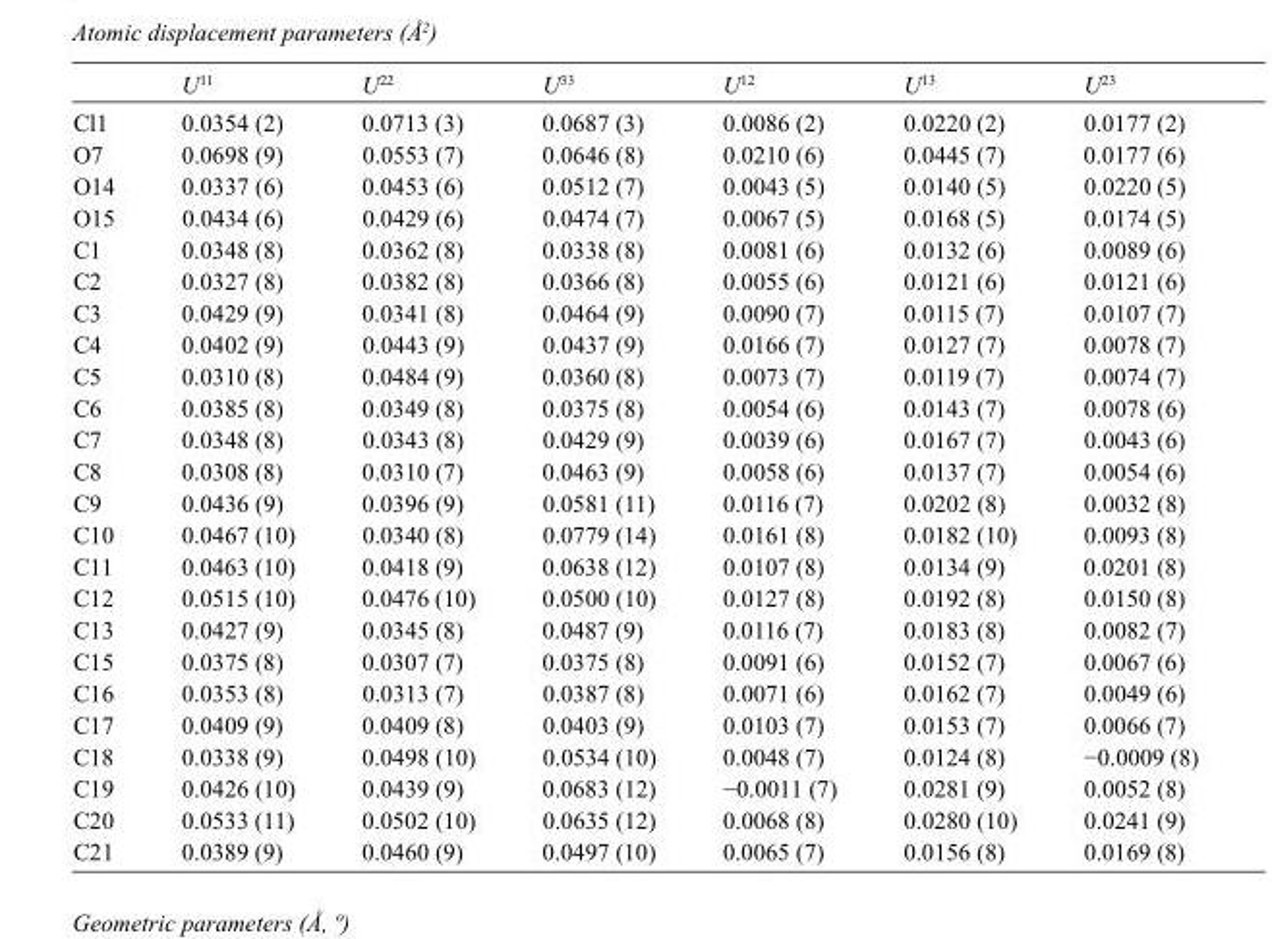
<table><thead><tr><td></td><td>U<sup>11</sup></td><td>U<sup>22</sup></td><td>U<sup>33</sup></td><td>U<sup>12</sup></td><td>U<sup>13</sup></td><td>U<sup>23</sup></td></tr></thead><tbody><tr><td>Cl1</td><td>0.0354 (2)</td><td>0.0713 (3)</td><td>0.0687 (3)</td><td>0.0086 (2)</td><td>0.0220 (2)</td><td>0.0177 (2)</td></tr><tr><td>O7</td><td>0.0698 (9)</td><td>0.0553 (7)</td><td>0.0646 (8)</td><td>0.0210 (6)</td><td>0.0445 (7)</td><td>0.0177 (6)</td></tr><tr><td>O14</td><td>0.0337 (6)</td><td>0.0453 (6)</td><td>0.0512 (7)</td><td>0.0043 (5)</td><td>0.0140 (5)</td><td>0.0220 (5)</td></tr><tr><td>O15</td><td>0.0434 (6)</td><td>0.0429 (6)</td><td>0.0474 (7)</td><td>0.0067 (5)</td><td>0.0168 (5)</td><td>0.0174 (5)</td></tr><tr><td>C1</td><td>0.0348 (8)</td><td>0.0362 (8)</td><td>0.0338 (8)</td><td>0.0081 (6)</td><td>0.0132 (6)</td><td>0.0089 (6)</td></tr><tr><td>C2</td><td>0.0327 (8)</td><td>0.0382 (8)</td><td>0.0366 (8)</td><td>0.0055 (6)</td><td>0.0121 (6)</td><td>0.0121 (6)</td></tr><tr><td>C3</td><td>0.0429 (9)</td><td>0.0341 (8)</td><td>0.0464 (9)</td><td>0.0090 (7)</td><td>0.0115 (7)</td><td>0.0107 (7)</td></tr><tr><td>C4</td><td>0.0402 (9)</td><td>0.0443 (9)</td><td>0.0437 (9)</td><td>0.0166 (7)</td><td>0.0127 (7)</td><td>0.0078 (7)</td></tr><tr><td>C5</td><td>0.0310 (8)</td><td>0.0484 (9)</td><td>0.0360 (8)</td><td>0.0073 (7)</td><td>0.0119 (7)</td><td>0.0074 (7)</td></tr><tr><td>C6</td><td>0.0385 (8)</td><td>0.0349 (8)</td><td>0.0375 (8)</td><td>0.0054 (6)</td><td>0.0143 (7)</td><td>0.0078 (6)</td></tr><tr><td>C7</td><td>0.0348 (8)</td><td>0.0343 (8)</td><td>0.0429 (9)</td><td>0.0039 (6)</td><td>0.0167 (7)</td><td>0.0043 (6)</td></tr><tr><td>C8</td><td>0.0308 (8)</td><td>0.0310 (7)</td><td>0.0463 (9)</td><td>0.0058 (6)</td><td>0.0137 (7)</td><td>0.0054 (6)</td></tr><tr><td>C9</td><td>0.0436 (9)</td><td>0.0396 (9)</td><td>0.0581 (11)</td><td>0.0116 (7)</td><td>0.0202 (8)</td><td>0.0032 (8)</td></tr><tr><td>C10</td><td>0.0467 (10)</td><td>0.0340 (8)</td><td>0.0779 (14)</td><td>0.0161 (8)</td><td>0.0182 (10)</td><td>0.0093 (8)</td></tr><tr><td>C11</td><td>0.0463 (10)</td><td>0.0418 (9)</td><td>0.0638 (12)</td><td>0.0107 (8)</td><td>0.0134 (9)</td><td>0.0201 (8)</td></tr><tr><td>C12</td><td>0.0515 (10)</td><td>0.0476 (10)</td><td>0.0500 (10)</td><td>0.0127 (8)</td><td>0.0192 (8)</td><td>0.0150 (8)</td></tr><tr><td>C13</td><td>0.0427 (9)</td><td>0.0345 (8)</td><td>0.0487 (9)</td><td>0.0116 (7)</td><td>0.0183 (8)</td><td>0.0082 (7)</td></tr><tr><td>C15</td><td>0.0375 (8)</td><td>0.0307 (7)</td><td>0.0375 (8)</td><td>0.0091 (6)</td><td>0.0152 (7)</td><td>0.0067 (6)</td></tr><tr><td>C16</td><td>0.0353 (8)</td><td>0.0313 (7)</td><td>0.0387 (8)</td><td>0.0071 (6)</td><td>0.0162 (7)</td><td>0.0049 (6)</td></tr><tr><td>C17</td><td>0.0409 (9)</td><td>0.0409 (8)</td><td>0.0403 (9)</td><td>0.0103 (7)</td><td>0.0153 (7)</td><td>0.0066 (7)</td></tr><tr><td>C18</td><td>0.0338 (9)</td><td>0.0498 (10)</td><td>0.0534 (10)</td><td>0.0048 (7)</td><td>0.0124 (8)</td><td>−0.0009 (8)</td></tr><tr><td>C19</td><td>0.0426 (10)</td><td>0.0439 (9)</td><td>0.0683 (12)</td><td>−0.0011 (7)</td><td>0.0281 (9)</td><td>0.0052 (8)</td></tr><tr><td>C20</td><td>0.0533 (11)</td><td>0.0502 (10)</td><td>0.0635 (12)</td><td>0.0068 (8)</td><td>0.0280 (10)</td><td>0.0241 (9)</td></tr><tr><td>C21</td><td>0.0389 (9)</td><td>0.0460 (9)</td><td>0.0497 (10)</td><td>0.0065 (7)</td><td>0.0156 (8)</td><td>0.0169 (8)</td></tr></tbody></table>